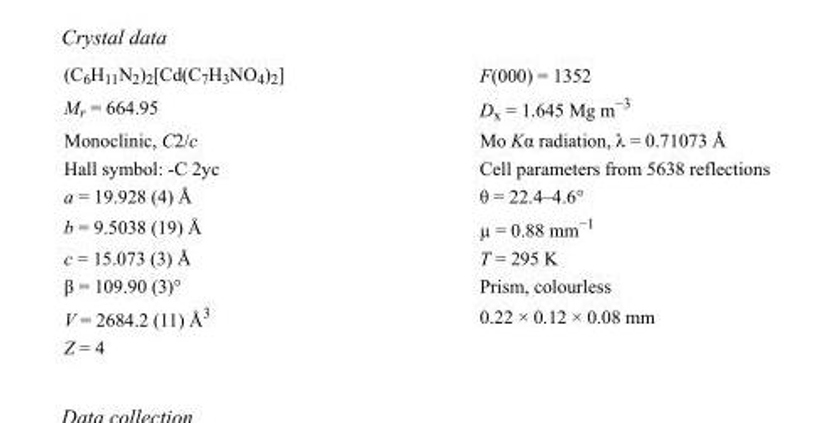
<table><tbody><tr><td>(C<sub>6</sub>H<sub>11</sub>N<sub>2</sub>)<sub>2</sub>[Cd(C<sub>7</sub>H<sub>3</sub>NO<sub>4</sub>)<sub>2</sub>]</td><td>F(000) = 1352</td></tr><tr><td>M<sub>r</sub> = 664.95</td><td>D<sub>x</sub> = 1.645 Mg m<sup>−3</sup></td></tr><tr><td>Monoclinic, C2/c</td><td>Mo Kα radiation, λ = 0.71073 Å</td></tr><tr><td>Hall symbol: -C 2yc</td><td>Cell parameters from 5638 reflections</td></tr><tr><td>a = 19.928 (4) Å</td><td>θ = 22.4–4.6°</td></tr><tr><td>b = 9.5038 (19) Å</td><td>µ = 0.88 mm<sup>−1</sup></td></tr><tr><td>c = 15.073 (3) Å</td><td>T = 295 K</td></tr><tr><td>β = 109.90 (3)°</td><td>Prism, colourless</td></tr><tr><td>V = 2684.2 (11) Å<sup>3</sup></td><td>0.22 × 0.12 × 0.08 mm</td></tr><tr><td>Z = 4</td><td></td></tr></tbody></table>